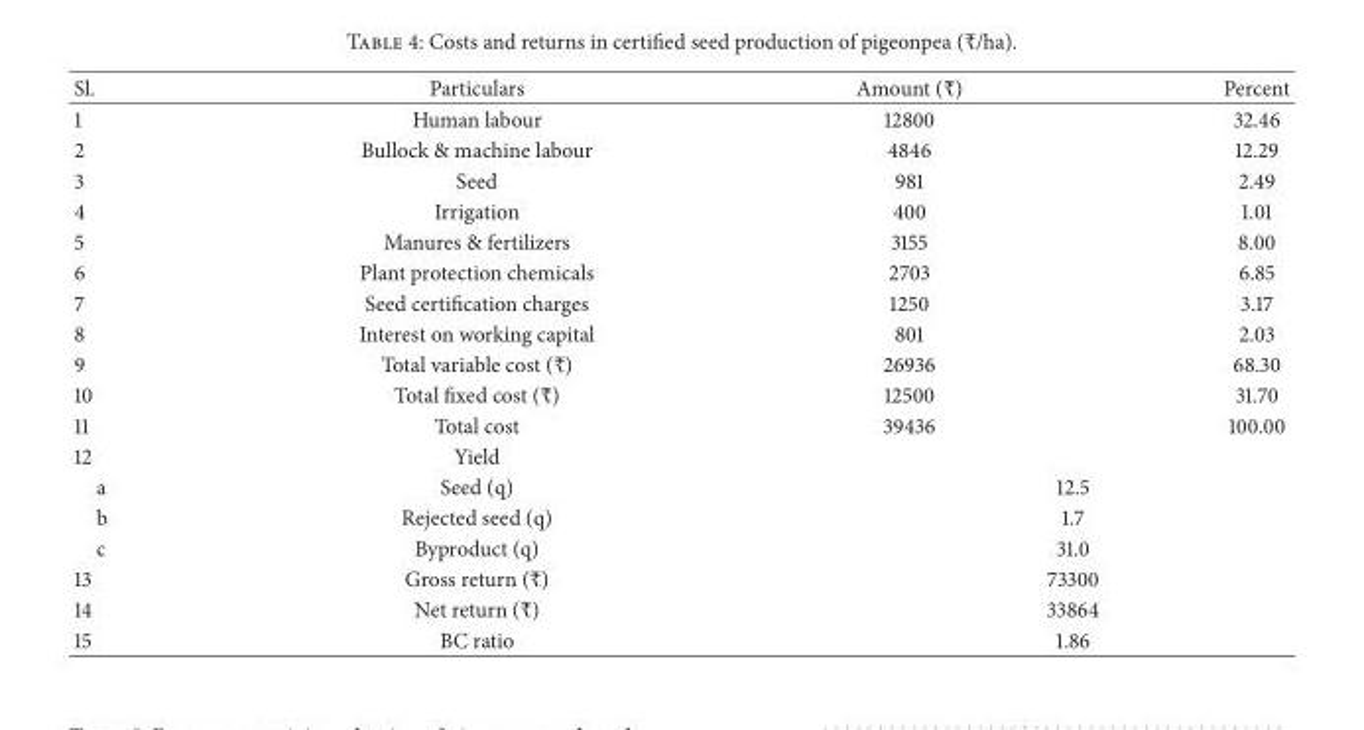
<table><thead><tr><td>Sl.</td><td>Particulars</td><td>Amount (₹)</td><td>Percent</td></tr></thead><tbody><tr><td>1</td><td>Human labour</td><td>12800</td><td>32.46</td></tr><tr><td>2</td><td>Bullock &amp; machine labour</td><td>4846</td><td>12.29</td></tr><tr><td>3</td><td>Seed</td><td>981</td><td>2.49</td></tr><tr><td>4</td><td>Irrigation</td><td>400</td><td>1.01</td></tr><tr><td>5</td><td>Manures &amp; fertilizers</td><td>3155</td><td>8.00</td></tr><tr><td>6</td><td>Plant protection chemicals</td><td>2703</td><td>6.85</td></tr><tr><td>7</td><td>Seed certification charges</td><td>1250</td><td>3.17</td></tr><tr><td>8</td><td>Interest on working capital</td><td>801</td><td>2.03</td></tr><tr><td>9</td><td>Total variable cost (₹)</td><td>26936</td><td>68.30</td></tr><tr><td>10</td><td>Total fixed cost (₹)</td><td>12500</td><td>31.70</td></tr><tr><td>11</td><td>Total cost</td><td>39436</td><td>100.00</td></tr><tr><td>12</td><td>Yield</td><td colspan="2"></td></tr><tr><td>a</td><td>Seed (q)</td><td colspan="2">12.5</td></tr><tr><td>b</td><td>Rejected seed (q)</td><td colspan="2">1.7</td></tr><tr><td>c</td><td>Byproduct (q)</td><td colspan="2">31.0</td></tr><tr><td>13</td><td>Gross return (₹)</td><td colspan="2">73300</td></tr><tr><td>14</td><td>Net return (₹)</td><td colspan="2">33864</td></tr><tr><td>15</td><td>BC ratio</td><td colspan="2">1.86</td></tr></tbody></table>